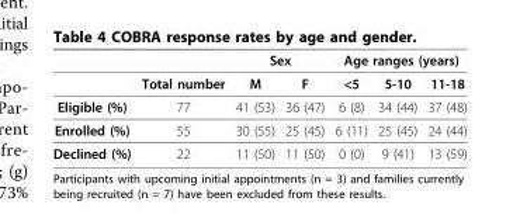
<table><thead><tr><td rowspan="2"></td><td rowspan="2">Total number</td><td colspan="2">Sex</td><td colspan="3">Age ranges (years)</td></tr><tr><td>M</td><td>F</td><td>&lt;5</td><td>5-10</td><td>11-18</td></tr></thead><tbody><tr><td>Eligible (%)</td><td>77</td><td>41 (53)</td><td>36 (47)</td><td>6 (8)</td><td>34 (44)</td><td>37 (48)</td></tr><tr><td>Enrolled (%)</td><td>55</td><td>30 (55)</td><td>25 (45)</td><td>6 (11)</td><td>25 (45)</td><td>24 (44)</td></tr><tr><td>Declined (%)</td><td>22</td><td>11 (50)</td><td>11 (50)</td><td>0 (0)</td><td>9 (41)</td><td>13 (59)</td></tr></tbody></table>